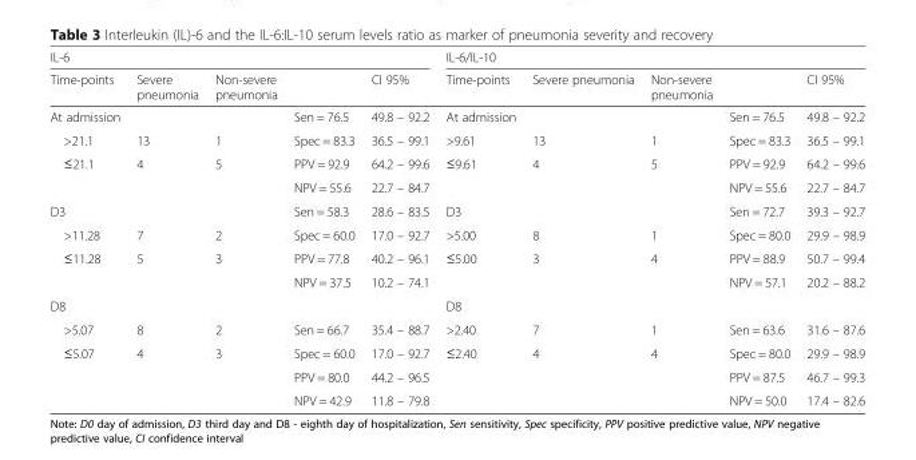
<table><thead><tr><td colspan="5">IL-6</td><td colspan="5">IL-6/IL-10</td></tr><tr><td>Time-points</td><td>Severe pneumonia</td><td>Non-severe pneumonia</td><td></td><td>CI 95%</td><td>Time-points</td><td>Severe pneumonia</td><td>Non-severe pneumonia</td><td></td><td>CI 95%</td></tr></thead><tbody><tr><td>At admission</td><td></td><td></td><td>Sen = 76.5</td><td>49.8 – 92.2</td><td>At admission</td><td></td><td></td><td>Sen = 76.5</td><td>49.8 – 92.2</td></tr><tr><td>&gt;21.1</td><td>13</td><td>1</td><td>Spec = 83.3</td><td>36.5 – 99.1</td><td>&gt;9.61</td><td>13</td><td>1</td><td>Spec = 83.3</td><td>36.5 – 99.1</td></tr><tr><td rowspan="2">≤21.1</td><td>4</td><td>5</td><td>PPV = 92.9</td><td>64.2 – 99.6</td><td>≤9.61</td><td>4</td><td>5</td><td>PPV = 92.9</td><td>64.2 – 99.6</td></tr><tr><td></td><td></td><td>NPV = 55.6</td><td>22.7 – 84.7</td><td></td><td></td><td></td><td>NPV = 55.6</td><td>22.7 – 84.7</td></tr><tr><td>D3</td><td></td><td></td><td>Sen = 58.3</td><td>28.6 – 83.5</td><td>D3</td><td></td><td></td><td>Sen = 72.7</td><td>39.3 – 92.7</td></tr><tr><td>&gt;11.28</td><td>7</td><td>2</td><td>Spec = 60.0</td><td>17.0 – 92.7</td><td>&gt;5.00</td><td>8</td><td>1</td><td>Spec = 80.0</td><td>29.9 – 98.9</td></tr><tr><td rowspan="2">≤11.28</td><td>5</td><td>3</td><td>PPV = 77.8</td><td>40.2 – 96.1</td><td>≤5.00</td><td>3</td><td>4</td><td>PPV = 88.9</td><td>50.7 – 99.4</td></tr><tr><td></td><td></td><td>NPV = 37.5</td><td>10.2 – 74.1</td><td></td><td></td><td></td><td>NPV = 57.1</td><td>20.2 – 88.2</td></tr><tr><td>D8</td><td></td><td></td><td></td><td></td><td>D8</td><td></td><td></td><td></td><td></td></tr><tr><td>&gt;5.07</td><td>8</td><td>2</td><td>Sen = 66.7</td><td>35.4 – 88.7</td><td>&gt;2.40</td><td>7</td><td>1</td><td>Sen = 63.6</td><td>31.6 – 87.6</td></tr><tr><td rowspan="3">≤5.07</td><td>4</td><td>3</td><td>Spec = 60.0</td><td>17.0 – 92.7</td><td>≤2.40</td><td>4</td><td>4</td><td>Spec = 80.0</td><td>29.9 – 98.9</td></tr><tr><td></td><td></td><td>PPV = 80.0</td><td>44.2 – 96.5</td><td></td><td></td><td></td><td>PPV = 87.5</td><td>46.7 – 99.3</td></tr><tr><td></td><td></td><td>NPV = 42.9</td><td>11.8 – 79.8</td><td></td><td></td><td></td><td>NPV = 50.0</td><td>17.4 – 82.6</td></tr></tbody></table>